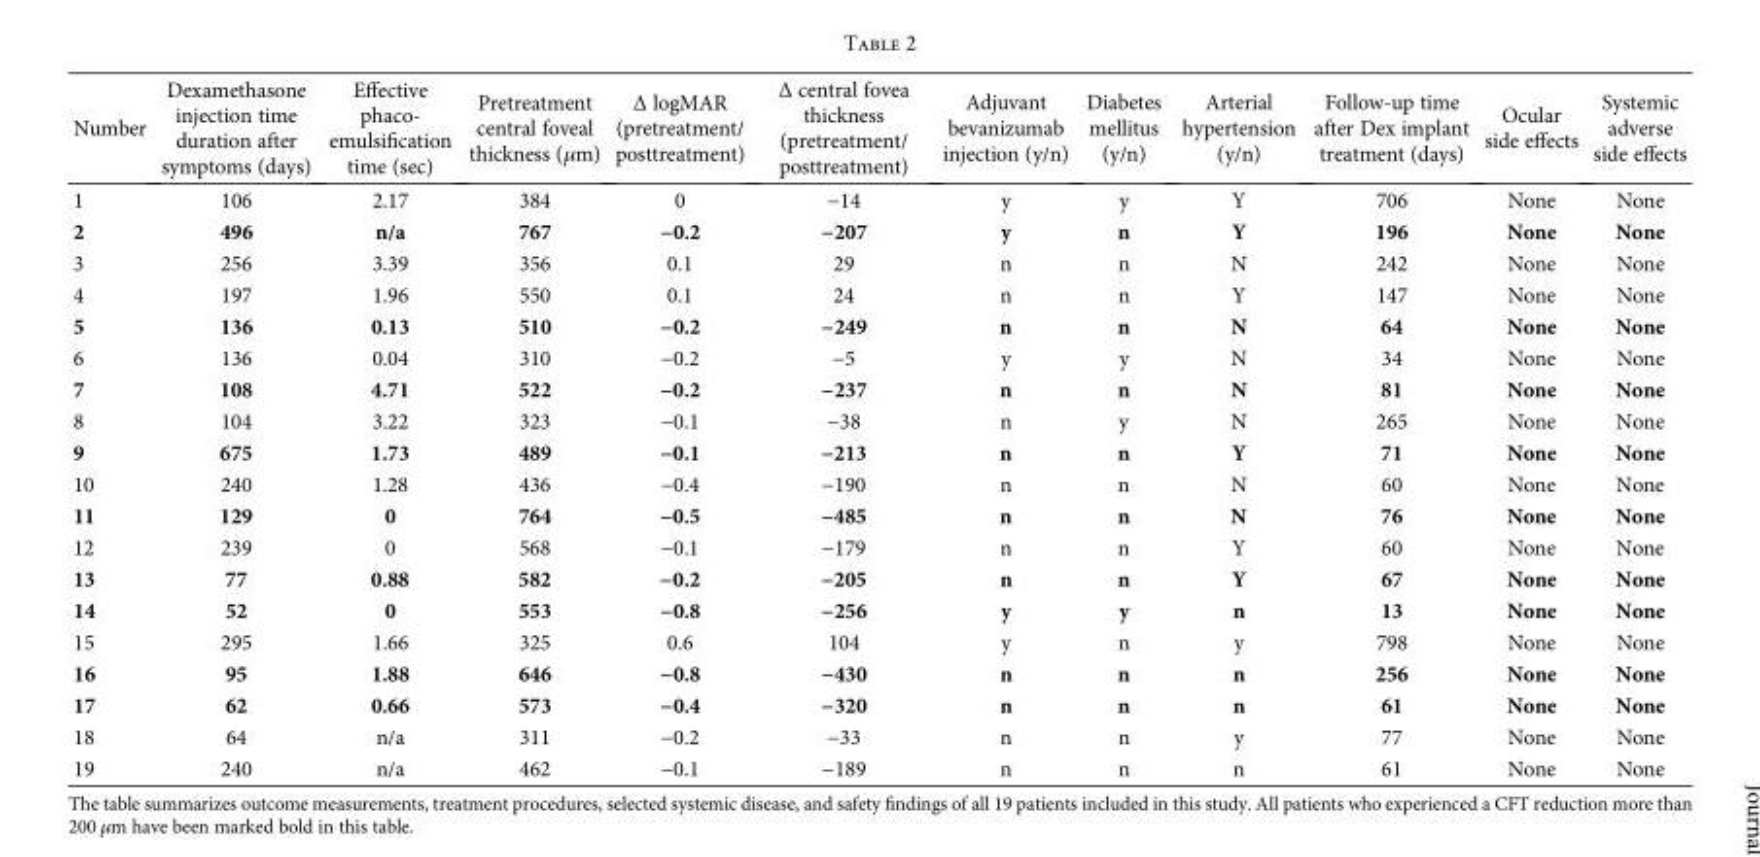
<table><thead><tr><td>Number</td><td>Dexamethasone injection time duration after symptoms (days)</td><td>Effective phaco- emulsification time (sec)</td><td>Pretreatment central foveal thickness (μm)</td><td>Δ logMAR (pretreatment/ posttreatment)</td><td>Δ central fovea thickness (pretreatment/ posttreatment)</td><td>Adjuvant bevanizumab injection (y/n)</td><td>Diabetes mellitus (y/n)</td><td>Arterial hypertension (y/n)</td><td>Follow-up time after Dex implant treatment (days)</td><td>Ocular side effects</td><td>Systemic adverse side effects</td></tr></thead><tbody><tr><td>1</td><td>106</td><td>2.17</td><td>384</td><td>0</td><td>−14</td><td>y</td><td>y</td><td>Y</td><td>706</td><td>None</td><td>None</td></tr><tr><td>2</td><td>496</td><td>n/a</td><td>767</td><td>−0.2</td><td>−207</td><td>y</td><td>n</td><td>Y</td><td>196</td><td>None</td><td>None</td></tr><tr><td>3</td><td>256</td><td>3.39</td><td>356</td><td>0.1</td><td>29</td><td>n</td><td>n</td><td>N</td><td>242</td><td>None</td><td>None</td></tr><tr><td>4</td><td>197</td><td>1.96</td><td>550</td><td>0.1</td><td>24</td><td>n</td><td>n</td><td>Y</td><td>147</td><td>None</td><td>None</td></tr><tr><td>5</td><td>136</td><td>0.13</td><td>510</td><td>−0.2</td><td>−249</td><td>n</td><td>n</td><td>N</td><td>64</td><td>None</td><td>None</td></tr><tr><td>6</td><td>136</td><td>0.04</td><td>310</td><td>−0.2</td><td>−5</td><td>y</td><td>y</td><td>N</td><td>34</td><td>None</td><td>None</td></tr><tr><td>7</td><td>108</td><td>4.71</td><td>522</td><td>−0.2</td><td>−237</td><td>n</td><td>n</td><td>N</td><td>81</td><td>None</td><td>None</td></tr><tr><td>8</td><td>104</td><td>3.22</td><td>323</td><td>−0.1</td><td>−38</td><td>n</td><td>y</td><td>N</td><td>265</td><td>None</td><td>None</td></tr><tr><td>9</td><td>675</td><td>1.73</td><td>489</td><td>−0.1</td><td>−213</td><td>n</td><td>n</td><td>Y</td><td>71</td><td>None</td><td>None</td></tr><tr><td>10</td><td>240</td><td>1.28</td><td>436</td><td>−0.4</td><td>−190</td><td>n</td><td>n</td><td>N</td><td>60</td><td>None</td><td>None</td></tr><tr><td>11</td><td>129</td><td>0</td><td>764</td><td>−0.5</td><td>−485</td><td>n</td><td>n</td><td>N</td><td>76</td><td>None</td><td>None</td></tr><tr><td>12</td><td>239</td><td>0</td><td>568</td><td>−0.1</td><td>−179</td><td>n</td><td>n</td><td>Y</td><td>60</td><td>None</td><td>None</td></tr><tr><td>13</td><td>77</td><td>0.88</td><td>582</td><td>−0.2</td><td>−205</td><td>n</td><td>n</td><td>Y</td><td>67</td><td>None</td><td>None</td></tr><tr><td>14</td><td>52</td><td>0</td><td>553</td><td>−0.8</td><td>−256</td><td>y</td><td>y</td><td>n</td><td>13</td><td>None</td><td>None</td></tr><tr><td>15</td><td>295</td><td>1.66</td><td>325</td><td>0.6</td><td>104</td><td>y</td><td>n</td><td>y</td><td>798</td><td>None</td><td>None</td></tr><tr><td>16</td><td>95</td><td>1.88</td><td>646</td><td>−0.8</td><td>−430</td><td>n</td><td>n</td><td>n</td><td>256</td><td>None</td><td>None</td></tr><tr><td>17</td><td>62</td><td>0.66</td><td>573</td><td>−0.4</td><td>−320</td><td>n</td><td>n</td><td>n</td><td>61</td><td>None</td><td>None</td></tr><tr><td>18</td><td>64</td><td>n/a</td><td>311</td><td>−0.2</td><td>−33</td><td>n</td><td>n</td><td>y</td><td>77</td><td>None</td><td>None</td></tr><tr><td>19</td><td>240</td><td>n/a</td><td>462</td><td>−0.1</td><td>−189</td><td>n</td><td>n</td><td>n</td><td>61</td><td>None</td><td>None</td></tr></tbody></table>